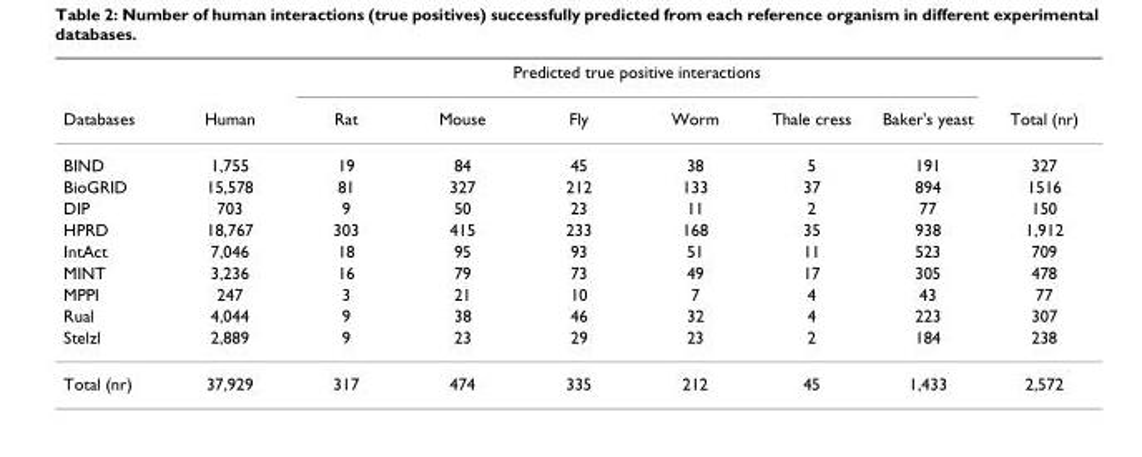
<table><thead><tr><td rowspan="2">Databases</td><td rowspan="2">Human</td><td colspan="6">Predicted true positive interactions</td><td rowspan="2">Total (nr)</td></tr><tr><td>Rat</td><td>Mouse</td><td>Fly</td><td>Worm</td><td>Thale cress</td><td>Baker&#x27;s yeast</td></tr></thead><tbody><tr><td>BIND</td><td>1,755</td><td>19</td><td>84</td><td>45</td><td>38</td><td>5</td><td>191</td><td>327</td></tr><tr><td>BioGRID</td><td>15,578</td><td>81</td><td>327</td><td>212</td><td>133</td><td>37</td><td>894</td><td>1516</td></tr><tr><td>DIP</td><td>703</td><td>9</td><td>50</td><td>23</td><td>11</td><td>2</td><td>77</td><td>150</td></tr><tr><td>HPRD</td><td>18,767</td><td>303</td><td>415</td><td>233</td><td>168</td><td>35</td><td>938</td><td>1,912</td></tr><tr><td>IntAct</td><td>7,046</td><td>18</td><td>95</td><td>93</td><td>51</td><td>11</td><td>523</td><td>709</td></tr><tr><td>MINT</td><td>3,236</td><td>16</td><td>79</td><td>73</td><td>49</td><td>17</td><td>305</td><td>478</td></tr><tr><td>MPPI</td><td>247</td><td>3</td><td>21</td><td>10</td><td>7</td><td>4</td><td>43</td><td>77</td></tr><tr><td>Rual</td><td>4,044</td><td>9</td><td>38</td><td>46</td><td>32</td><td>4</td><td>223</td><td>307</td></tr><tr><td>Stelzl</td><td>2,889</td><td>9</td><td>23</td><td>29</td><td>23</td><td>2</td><td>184</td><td>238</td></tr><tr><td>Total (nr)</td><td>37,929</td><td>317</td><td>474</td><td>335</td><td>212</td><td>45</td><td>1,433</td><td>2,572</td></tr></tbody></table>